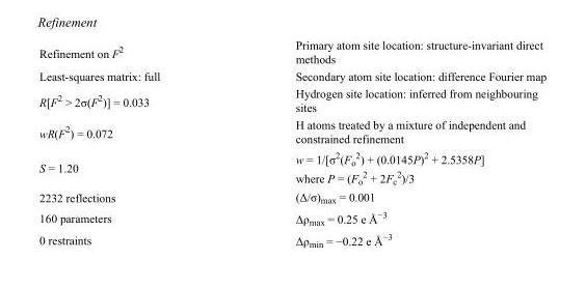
<table><tbody><tr><td>Refinement on F<sup>2</sup></td><td>Primary atom site location: structure-invariant direct methods</td></tr><tr><td>Least-squares matrix: full</td><td>Secondary atom site location: difference Fourier map</td></tr><tr><td>R[F<sup>2</sup> &gt; 2σ(F<sup>2</sup>)] = 0.033</td><td>Hydrogen site location: inferred from neighbouring sites</td></tr><tr><td>wR(F<sup>2</sup>) = 0.072</td><td>H atoms treated by a mixture of independent and constrained refinement</td></tr><tr><td>S = 1.20</td><td>w = 1/[σ<sup>2</sup>(F<sub>o</sub> <sup>2</sup>) + (0.0145P)<sup>2</sup> + 2.5358P] where P = (F<sub>o</sub> <sup>2</sup> + 2F<sub>c</sub> <sup>2</sup>)/3</td></tr><tr><td>2232 reflections</td><td>(Δ/σ)<sub>max</sub> = 0.001</td></tr><tr><td>160 parameters</td><td>Δρ<sub>max</sub> = 0.25 e Å<sup>−3</sup></td></tr><tr><td>0 restraints</td><td>Δρ<sub>min</sub> = −0.22 e Å<sup>−3</sup></td></tr></tbody></table>